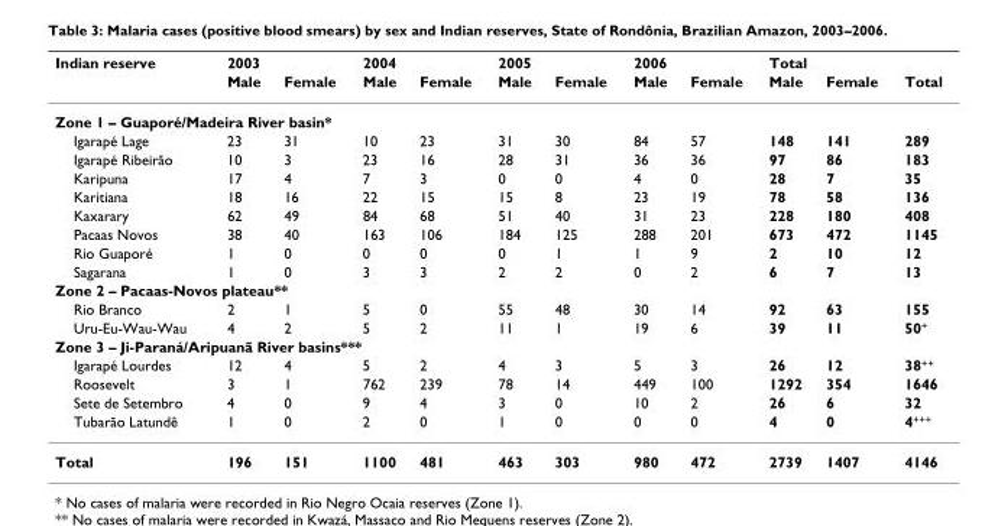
<table><thead><tr><td rowspan="2">Indian reserve</td><td colspan="2">2003</td><td colspan="2">2004</td><td colspan="2">2005</td><td colspan="2">2006</td><td colspan="2">Total</td><td rowspan="2">Total</td></tr><tr><td>Male</td><td>Female</td><td>Male</td><td>Female</td><td>Male</td><td>Female</td><td>Male</td><td>Female</td><td>Male</td><td>Female</td></tr></thead><tbody><tr><td colspan="12">Zone 1 – Guaporé/Madeira River basin*</td></tr><tr><td>Igarapé Lage</td><td>23</td><td>31</td><td>10</td><td>23</td><td>31</td><td>30</td><td>84</td><td>57</td><td>148</td><td>141</td><td>289</td></tr><tr><td>Igarapé Ribeirão</td><td>10</td><td>3</td><td>23</td><td>16</td><td>28</td><td>31</td><td>36</td><td>36</td><td>97</td><td>86</td><td>183</td></tr><tr><td>Karipuna</td><td>17</td><td>4</td><td>7</td><td>3</td><td>0</td><td>0</td><td>4</td><td>0</td><td>28</td><td>7</td><td>35</td></tr><tr><td>Karitiana</td><td>18</td><td>16</td><td>22</td><td>15</td><td>15</td><td>8</td><td>23</td><td>19</td><td>78</td><td>58</td><td>136</td></tr><tr><td>Kaxarary</td><td>62</td><td>49</td><td>84</td><td>68</td><td>51</td><td>40</td><td>31</td><td>23</td><td>228</td><td>180</td><td>408</td></tr><tr><td>Pacaas Novos</td><td>38</td><td>40</td><td>163</td><td>106</td><td>184</td><td>125</td><td>288</td><td>201</td><td>673</td><td>472</td><td>1145</td></tr><tr><td>Rio Guaporé</td><td>1</td><td>0</td><td>0</td><td>0</td><td>0</td><td>1</td><td>1</td><td>9</td><td>2</td><td>10</td><td>12</td></tr><tr><td>Sagarana</td><td>1</td><td>0</td><td>3</td><td>3</td><td>2</td><td>2</td><td>0</td><td>2</td><td>6</td><td>7</td><td>13</td></tr><tr><td colspan="12">Zone 2 – Pacaas-Novos plateau**</td></tr><tr><td>Rio Branco</td><td>2</td><td>1</td><td>5</td><td>0</td><td>55</td><td>48</td><td>30</td><td>14</td><td>92</td><td>63</td><td>155</td></tr><tr><td>Uru-Eu-Wau-Wau</td><td>4</td><td>2</td><td>5</td><td>2</td><td>11</td><td>1</td><td>19</td><td>6</td><td>39</td><td>11</td><td>50<sup>+</sup></td></tr><tr><td colspan="12">Zone 3 – Ji-Paraná/Aripuanã River basins***</td></tr><tr><td>Igarapé Lourdes</td><td>12</td><td>4</td><td>5</td><td>2</td><td>4</td><td>3</td><td>5</td><td>3</td><td>26</td><td>12</td><td>38<sup>++</sup></td></tr><tr><td>Roosevelt</td><td>3</td><td>1</td><td>762</td><td>239</td><td>78</td><td>14</td><td>449</td><td>100</td><td>1292</td><td>354</td><td>1646</td></tr><tr><td>Sete de Setembro</td><td>4</td><td>0</td><td>9</td><td>4</td><td>3</td><td>0</td><td>10</td><td>2</td><td>26</td><td>6</td><td>32</td></tr><tr><td>Tubarão Latundê</td><td>1</td><td>0</td><td>2</td><td>0</td><td>1</td><td>0</td><td>0</td><td>0</td><td>4</td><td>0</td><td>4<sup>+++</sup></td></tr><tr><td>Total</td><td>196</td><td>151</td><td>1100</td><td>481</td><td>463</td><td>303</td><td>980</td><td>472</td><td>2739</td><td>1407</td><td>4146</td></tr></tbody></table>